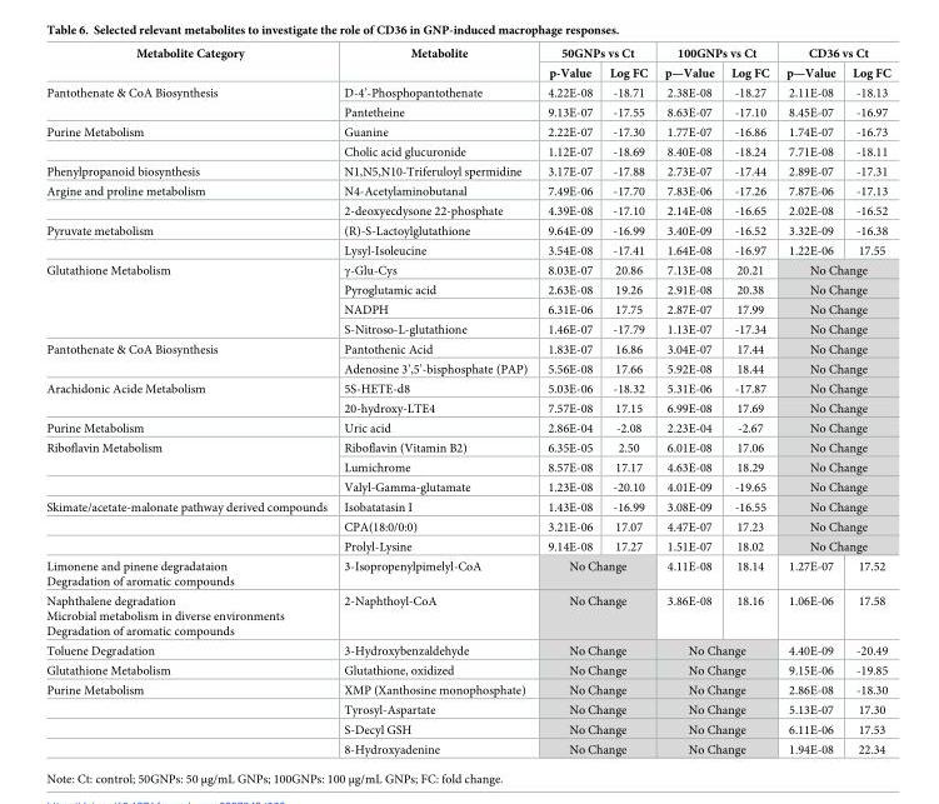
<table><thead><tr><td rowspan="2">Metabolite Category</td><td rowspan="2">Metabolite</td><td colspan="2">50GNPs vs Ct</td><td colspan="2">100GNPs vs Ct</td><td colspan="2">CD36 vs Ct</td></tr><tr><td>p-Value</td><td>Log FC</td><td>p—Value</td><td>Log FC</td><td>p—Value</td><td>Log FC</td></tr></thead><tbody><tr><td rowspan="2">Pantothenate &amp; CoA Biosynthesis</td><td>D-4’-Phosphopantothenate</td><td>4.22E-08</td><td>-18.71</td><td>2.38E-08</td><td>-18.27</td><td>2.11E-08</td><td>-18.13</td></tr><tr><td>Pantetheine</td><td>9.13E-07</td><td>-17.55</td><td>8.63E-07</td><td>-17.10</td><td>8.45E-07</td><td>-16.97</td></tr><tr><td rowspan="2">Purine Metabolism</td><td>Guanine</td><td>2.22E-07</td><td>-17.30</td><td>1.77E-07</td><td>-16.86</td><td>1.74E-07</td><td>-16.73</td></tr><tr><td>Cholic acid glucuronide</td><td>1.12E-07</td><td>-18.69</td><td>8.40E-08</td><td>-18.24</td><td>7.71E-08</td><td>-18.11</td></tr><tr><td>Phenylpropanoid biosynthesis</td><td>N1,N5,N10-Triferuloyl spermidine</td><td>3.17E-07</td><td>-17.88</td><td>2.73E-07</td><td>-17.44</td><td>2.89E-07</td><td>-17.31</td></tr><tr><td rowspan="2">Argine and proline metabolism</td><td>N4-Acetylaminobutanal</td><td>7.49E-06</td><td>-17.70</td><td>7.83E-06</td><td>-17.26</td><td>7.87E-06</td><td>-17.13</td></tr><tr><td>2-deoxyecdysone 22-phosphate</td><td>4.39E-08</td><td>-17.10</td><td>2.14E-08</td><td>-16.65</td><td>2.02E-08</td><td>-16.52</td></tr><tr><td rowspan="2">Pyruvate metabolism</td><td>(R)-S-Lactoylglutathione</td><td>9.64E-09</td><td>-16.99</td><td>3.40E-09</td><td>-16.52</td><td>3.32E-09</td><td>-16.38</td></tr><tr><td>Lysyl-Isoleucine</td><td>3.54E-08</td><td>-17.41</td><td>1.64E-08</td><td>-16.97</td><td>1.22E-06</td><td>17.55</td></tr><tr><td rowspan="4">Glutathione Metabolism</td><td>γ-Glu-Cys</td><td>8.03E-07</td><td>20.86</td><td>7.13E-08</td><td>20.21</td><td colspan="2">No Change</td></tr><tr><td>Pyroglutamic acid</td><td>2.63E-08</td><td>19.26</td><td>2.91E-08</td><td>20.38</td><td colspan="2">No Change</td></tr><tr><td>NADPH</td><td>6.31E-06</td><td>17.75</td><td>2.87E-07</td><td>17.99</td><td colspan="2">No Change</td></tr><tr><td>S-Nitroso-L-glutathione</td><td>1.46E-07</td><td>-17.79</td><td>1.13E-07</td><td>-17.34</td><td colspan="2">No Change</td></tr><tr><td rowspan="2">Pantothenate &amp; CoA Biosynthesis</td><td>Pantothenic Acid</td><td>1.83E-07</td><td>16.86</td><td>3.04E-07</td><td>17.44</td><td colspan="2">No Change</td></tr><tr><td>Adenosine 3’,5’-bisphosphate (PAP)</td><td>5.56E-08</td><td>17.66</td><td>5.92E-08</td><td>18.44</td><td colspan="2">No Change</td></tr><tr><td rowspan="2">Arachidonic Acide Metabolism</td><td>5S-HETE-d8</td><td>5.03E-06</td><td>-18.32</td><td>5.31E-06</td><td>-17.87</td><td colspan="2">No Change</td></tr><tr><td>20-hydroxy-LTE4</td><td>7.57E-08</td><td>17.15</td><td>6.99E-08</td><td>17.69</td><td colspan="2">No Change</td></tr><tr><td>Purine Metabolism</td><td>Uric acid</td><td>2.86E-04</td><td>-2.08</td><td>2.23E-04</td><td>-2.67</td><td colspan="2">No Change</td></tr><tr><td rowspan="3">Riboflavin Metabolism</td><td>Riboflavin (Vitamin B2)</td><td>6.35E-05</td><td>2.50</td><td>6.01E-08</td><td>17.06</td><td colspan="2">No Change</td></tr><tr><td>Lumichrome</td><td>8.57E-08</td><td>17.17</td><td>4.63E-08</td><td>18.29</td><td colspan="2">No Change</td></tr><tr><td>Valyl-Gamma-glutamate</td><td>1.23E-08</td><td>-20.10</td><td>4.01E-09</td><td>-19.65</td><td colspan="2">No Change</td></tr><tr><td rowspan="3">Skimate/acetate-malonate pathway derived compounds</td><td>Isobatatasin I</td><td>1.43E-08</td><td>-16.99</td><td>3.08E-09</td><td>-16.55</td><td colspan="2">No Change</td></tr><tr><td>CPA(18:0/0:0)</td><td>3.21E-06</td><td>17.07</td><td>4.47E-07</td><td>17.23</td><td colspan="2">No Change</td></tr><tr><td>Prolyl-Lysine</td><td>9.14E-08</td><td>17.27</td><td>1.51E-07</td><td>18.02</td><td colspan="2">No Change</td></tr><tr><td>Limonene and pinene degradataion Degradation of aromatic compounds</td><td>3-Isopropenylpimelyl-CoA</td><td colspan="2">No Change</td><td>4.11E-08</td><td>18.14</td><td>1.27E-07</td><td>17.52</td></tr><tr><td>Naphthalene degradation Microbial metabolism in diverse environments Degradation of aromatic compounds</td><td>2-Naphthoyl-CoA</td><td colspan="2">No Change</td><td>3.86E-08</td><td>18.16</td><td>1.06E-06</td><td>17.58</td></tr><tr><td>Toluene Degradation</td><td>3-Hydroxybenzaldehyde</td><td colspan="2">No Change</td><td colspan="2">No Change</td><td>4.40E-09</td><td>-20.49</td></tr><tr><td>Glutathione Metabolism</td><td>Glutathione, oxidized</td><td colspan="2">No Change</td><td colspan="2">No Change</td><td>9.15E-06</td><td>-19.85</td></tr><tr><td rowspan="4">Purine Metabolism</td><td>XMP (Xanthosine monophosphate)</td><td colspan="2">No Change</td><td colspan="2">No Change</td><td>2.86E-08</td><td>-18.30</td></tr><tr><td>Tyrosyl-Aspartate</td><td colspan="2">No Change</td><td colspan="2">No Change</td><td>5.13E-07</td><td>17.30</td></tr><tr><td>S-Decyl GSH</td><td colspan="2">No Change</td><td colspan="2">No Change</td><td>6.11E-06</td><td>17.53</td></tr><tr><td>8-Hydroxyadenine</td><td colspan="2">No Change</td><td colspan="2">No Change</td><td>1.94E-08</td><td>22.34</td></tr></tbody></table>